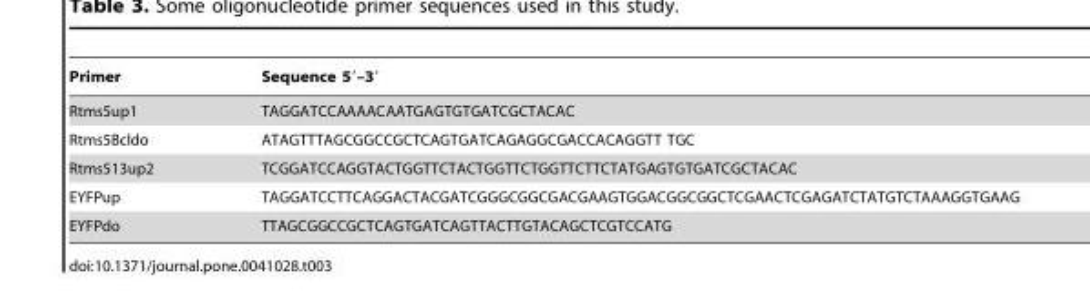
<table><thead><tr><td>Primer</td><td>Sequence 5′–3′</td></tr></thead><tbody><tr><td>Rtms5up1</td><td>TAGGATCCAAAACAATGAGTGTGATCGCTACAC</td></tr><tr><td>Rtms5Bcldo</td><td>ATAGTTTAGCGGCCGCTCAGTGATCAGAGGCGACCACAGGTT TGC</td></tr><tr><td>Rtms513up2</td><td>TCGGATCCAGGTACTGGTTCTACTGGTTCTGGTTCTTCTATGAGTGTGATCGCTACAC</td></tr><tr><td>EYFPup</td><td>TAGGATCCTTCAGGACTACGATCGGGCGGCGACGAAGTGGACGGCGGCTCGAACTCGAGATCTATGTCTAAAGGTGAAG</td></tr><tr><td>EYFPdo</td><td>TTAGCGGCCGCTCAGTGATCAGTTACTTGTACAGCTCGTCCATG</td></tr></tbody></table>